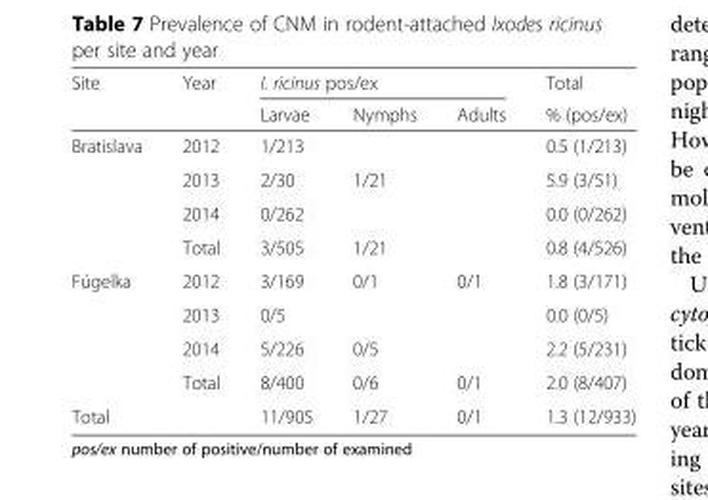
<table><thead><tr><td rowspan="2">Site</td><td rowspan="2">Year</td><td colspan="3">I. ricinus pos/ex</td><td rowspan="2">Total % (pos/ex)</td></tr><tr><td>Larvae</td><td>Nymphs</td><td>Adults</td></tr></thead><tbody><tr><td rowspan="4">Bratislava</td><td>2012</td><td>1/213</td><td></td><td></td><td>0.5 (1/213)</td></tr><tr><td>2013</td><td>2/30</td><td>1/21</td><td></td><td>5.9 (3/51)</td></tr><tr><td>2014</td><td>0/262</td><td></td><td></td><td>0.0 (0/262)</td></tr><tr><td>Total</td><td>3/505</td><td>1/21</td><td></td><td>0.8 (4/526)</td></tr><tr><td rowspan="4">Fúgelka</td><td>2012</td><td>3/169</td><td>0/1</td><td>0/1</td><td>1.8 (3/171)</td></tr><tr><td>2013</td><td>0/5</td><td></td><td></td><td>0.0 (0/5)</td></tr><tr><td>2014</td><td>5/226</td><td>0/5</td><td></td><td>2.2 (5/231)</td></tr><tr><td>Total</td><td>8/400</td><td>0/6</td><td>0/1</td><td>2.0 (8/407)</td></tr><tr><td>Total</td><td></td><td>11/905</td><td>1/27</td><td>0/1</td><td>1.3 (12/933)</td></tr></tbody></table>